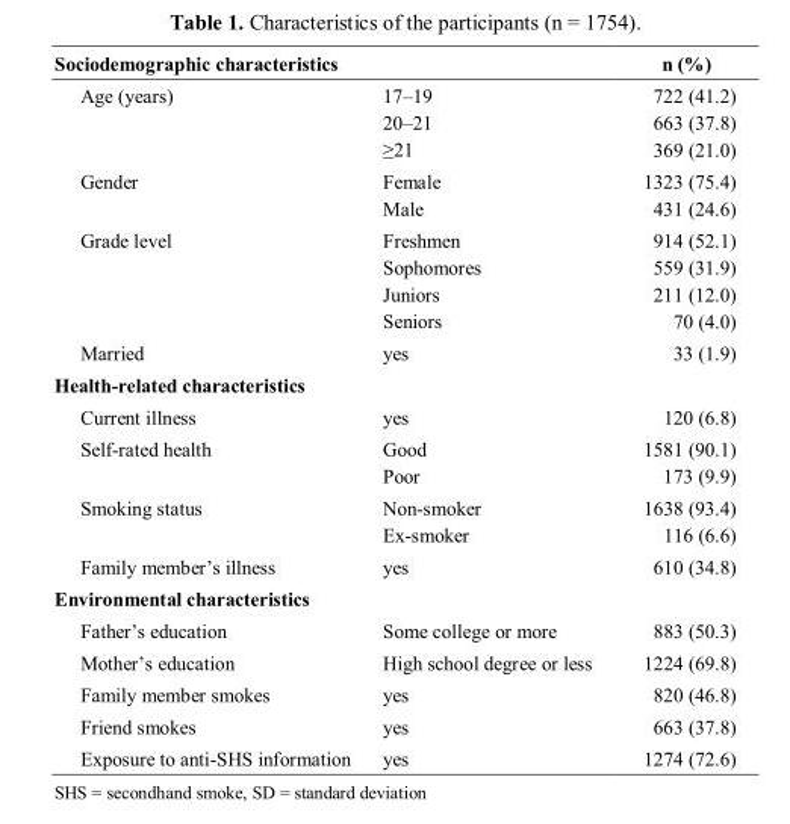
<table><tbody><tr><td colspan="2">Sociodemographic characteristics</td><td>n (%)</td></tr><tr><td rowspan="3">Age (years)</td><td>17–19</td><td>722 (41.2)</td></tr><tr><td>20–21</td><td>663 (37.8)</td></tr><tr><td>≥21</td><td>369 (21.0)</td></tr><tr><td rowspan="2">Gender</td><td>Female</td><td>1323 (75.4)</td></tr><tr><td>Male</td><td>431 (24.6)</td></tr><tr><td rowspan="4">Grade level</td><td>Freshmen</td><td>914 (52.1)</td></tr><tr><td>Sophomores</td><td>559 (31.9)</td></tr><tr><td>Juniors</td><td>211 (12.0)</td></tr><tr><td>Seniors</td><td>70 (4.0)</td></tr><tr><td>Married</td><td>yes</td><td>33 (1.9)</td></tr><tr><td colspan="3">Health-related characteristics</td></tr><tr><td>Current illness</td><td>yes</td><td>120 (6.8)</td></tr><tr><td rowspan="2">Self-rated health</td><td>Good</td><td>1581 (90.1)</td></tr><tr><td>Poor</td><td>173 (9.9)</td></tr><tr><td rowspan="2">Smoking status</td><td>Non-smoker</td><td>1638 (93.4)</td></tr><tr><td>Ex-smoker</td><td>116 (6.6)</td></tr><tr><td>Family member’s illness</td><td>yes</td><td>610 (34.8)</td></tr><tr><td colspan="3">Environmental characteristics</td></tr><tr><td>Father’s education</td><td>Some college or more</td><td>883 (50.3)</td></tr><tr><td>Mother’s education</td><td>High school degree or less</td><td>1224 (69.8)</td></tr><tr><td>Family member smokes</td><td>yes</td><td>820 (46.8)</td></tr><tr><td>Friend smokes</td><td>yes</td><td>663 (37.8)</td></tr><tr><td>Exposure to anti-SHS information</td><td>yes</td><td>1274 (72.6)</td></tr></tbody></table>